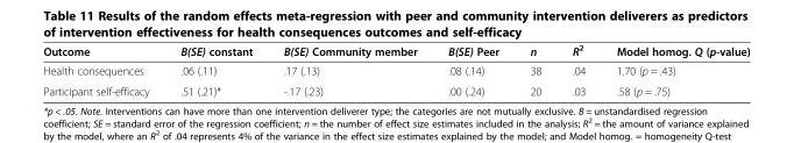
<table><thead><tr><td>Outcome</td><td>B(SE) constant</td><td>B(SE) Community member</td><td>B(SE) Peer</td><td>n</td><td>R<sup>2</sup></td><td>Model homog. Q (p-value)</td></tr></thead><tbody><tr><td>Health consequences</td><td>.06 (.11)</td><td>.17 (.13)</td><td>.08 (.14)</td><td>38</td><td>.04</td><td>1.70 (p = .43)</td></tr><tr><td>Participant self-efficacy</td><td>.51 (.21)*</td><td>-.17 (.23)</td><td>.00 (.24)</td><td>20</td><td>.03</td><td>.58 (p = .75)</td></tr></tbody></table>